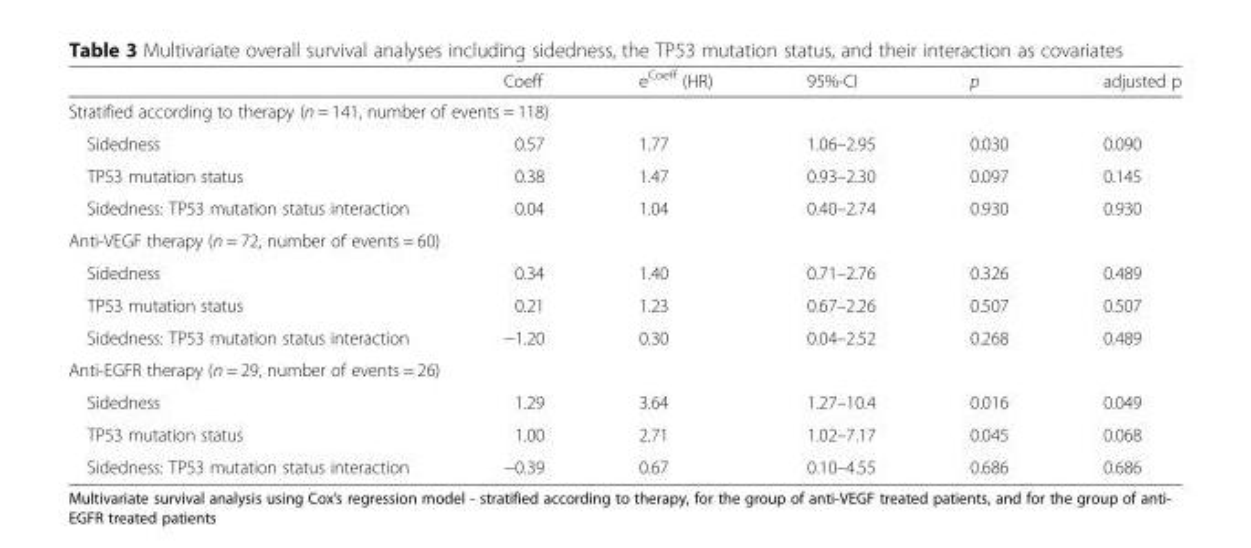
<table><thead><tr><td></td><td>Coeff</td><td>e<sup>Coeff</sup> (HR)</td><td>95%-CI</td><td>p</td><td>adjusted p</td></tr></thead><tbody><tr><td colspan="6">Stratified according to therapy (n = 141, number of events = 118)</td></tr><tr><td>Sidedness</td><td>0.57</td><td>1.77</td><td>1.06–2.95</td><td>0.030</td><td>0.090</td></tr><tr><td>TP53 mutation status</td><td>0.38</td><td>1.47</td><td>0.93–2.30</td><td>0.097</td><td>0.145</td></tr><tr><td>Sidedness: TP53 mutation status interaction</td><td>0.04</td><td>1.04</td><td>0.40–2.74</td><td>0.930</td><td>0.930</td></tr><tr><td colspan="6">Anti-VEGF therapy (n = 72, number of events = 60)</td></tr><tr><td>Sidedness</td><td>0.34</td><td>1.40</td><td>0.71–2.76</td><td>0.326</td><td>0.489</td></tr><tr><td>TP53 mutation status</td><td>0.21</td><td>1.23</td><td>0.67–2.26</td><td>0.507</td><td>0.507</td></tr><tr><td>Sidedness: TP53 mutation status interaction</td><td>−1.20</td><td>0.30</td><td>0.04–2.52</td><td>0.268</td><td>0.489</td></tr><tr><td colspan="6">Anti-EGFR therapy (n = 29, number of events = 26)</td></tr><tr><td>Sidedness</td><td>1.29</td><td>3.64</td><td>1.27–10.4</td><td>0.016</td><td>0.049</td></tr><tr><td>TP53 mutation status</td><td>1.00</td><td>2.71</td><td>1.02–7.17</td><td>0.045</td><td>0.068</td></tr><tr><td>Sidedness: TP53 mutation status interaction</td><td>−0.39</td><td>0.67</td><td>0.10–4.55</td><td>0.686</td><td>0.686</td></tr></tbody></table>